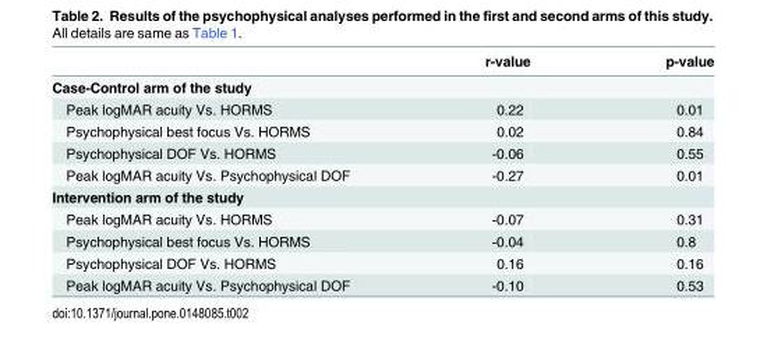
<table><thead><tr><td></td><td>r-value</td><td>p-value</td></tr></thead><tbody><tr><td colspan="3">Case-Control arm of the study</td></tr><tr><td>Peak logMAR acuity Vs. HORMS</td><td>0.22</td><td>0.01</td></tr><tr><td>Psychophysical best focus Vs. HORMS</td><td>0.02</td><td>0.84</td></tr><tr><td>Psychophysical DOF Vs. HORMS</td><td>-0.06</td><td>0.55</td></tr><tr><td>Peak logMAR acuity Vs. Psychophysical DOF</td><td>-0.27</td><td>0.01</td></tr><tr><td colspan="3">Intervention arm of the study</td></tr><tr><td>Peak logMAR acuity Vs. HORMS</td><td>-0.07</td><td>0.31</td></tr><tr><td>Psychophysical best focus Vs. HORMS</td><td>-0.04</td><td>0.8</td></tr><tr><td>Psychophysical DOF Vs. HORMS</td><td>0.16</td><td>0.16</td></tr><tr><td>Peak logMAR acuity Vs. Psychophysical DOF</td><td>-0.10</td><td>0.53</td></tr></tbody></table>